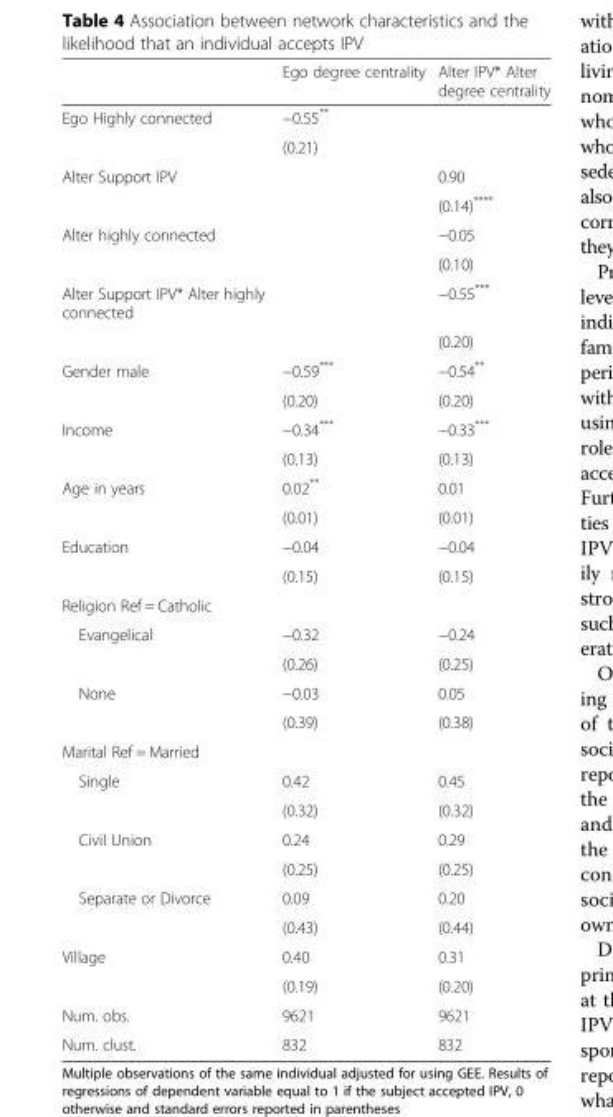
<table><thead><tr><td></td><td>Ego degree centrality</td><td>Alter IPV* Alter degree centrality</td></tr></thead><tbody><tr><td rowspan="2">Ego Highly connected</td><td>−0.55**</td><td></td></tr><tr><td>(0.21)</td><td></td></tr><tr><td rowspan="2">Alter Support IPV</td><td></td><td>0.90</td></tr><tr><td></td><td>(0.14)****</td></tr><tr><td rowspan="2">Alter highly connected</td><td></td><td>−0.05</td></tr><tr><td></td><td>(0.10)</td></tr><tr><td rowspan="2">Alter Support IPV* Alter highly connected</td><td></td><td>−0.55***</td></tr><tr><td></td><td>(0.20)</td></tr><tr><td rowspan="2">Gender male</td><td>−0.59***</td><td>−0.54**</td></tr><tr><td>(0.20)</td><td>(0.20)</td></tr><tr><td rowspan="2">Income</td><td>−0.34***</td><td>−0.33***</td></tr><tr><td>(0.13)</td><td>(0.13)</td></tr><tr><td rowspan="2">Age in years</td><td>0.02**</td><td>0.01</td></tr><tr><td>(0.01)</td><td>(0.01)</td></tr><tr><td rowspan="2">Education</td><td>−0.04</td><td>−0.04</td></tr><tr><td>(0.15)</td><td>(0.15)</td></tr><tr><td colspan="3">Religion Ref = Catholic</td></tr><tr><td rowspan="2">Evangelical</td><td>−0.32</td><td>−0.24</td></tr><tr><td>(0.26)</td><td>(0.25)</td></tr><tr><td rowspan="2">None</td><td>−0.03</td><td>0.05</td></tr><tr><td>(0.39)</td><td>(0.38)</td></tr><tr><td colspan="3">Marital Ref = Married</td></tr><tr><td rowspan="2">Single</td><td>0.42</td><td>0.45</td></tr><tr><td>(0.32)</td><td>(0.32)</td></tr><tr><td rowspan="2">Civil Union</td><td>0.24</td><td>0.29</td></tr><tr><td>(0.25)</td><td>(0.25)</td></tr><tr><td rowspan="2">Separate or Divorce</td><td>0.09</td><td>0.20</td></tr><tr><td>(0.43)</td><td>(0.44)</td></tr><tr><td rowspan="2">Village</td><td>0.40</td><td>0.31</td></tr><tr><td>(0.19)</td><td>(0.20)</td></tr><tr><td>Num. obs.</td><td>9621</td><td>9621</td></tr><tr><td>Num. clust.</td><td>832</td><td>832</td></tr></tbody></table>